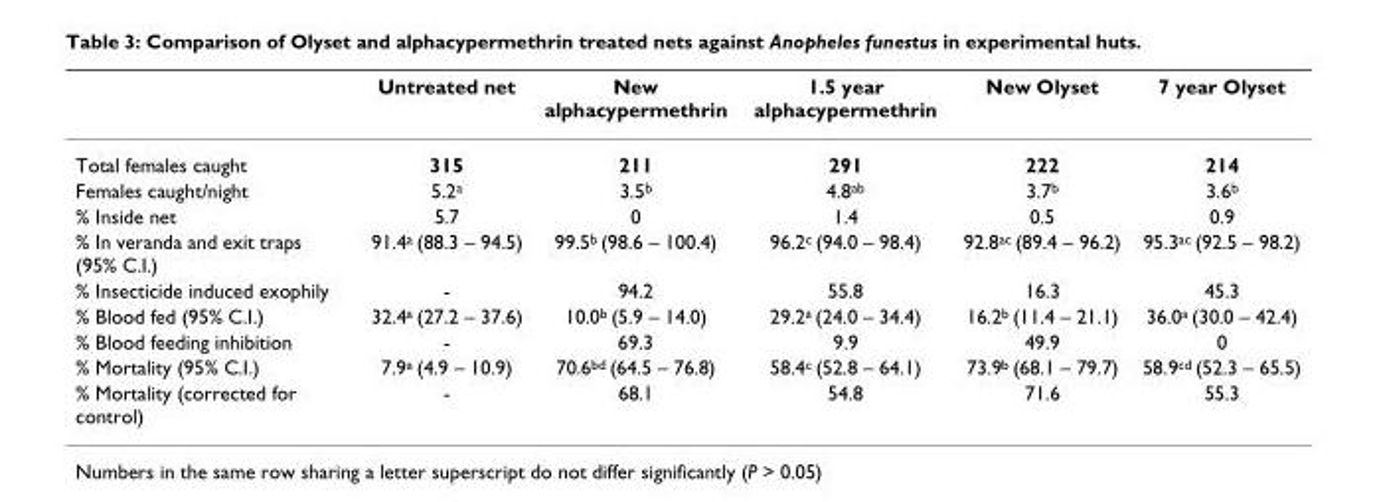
<table><thead><tr><td></td><td>Untreated net</td><td>New alphacypermethrin</td><td>1.5 year alphacypermethrin</td><td>New Olyset</td><td>7 year Olyset</td></tr></thead><tbody><tr><td>Total females caught</td><td>315</td><td>211</td><td>291</td><td>222</td><td>214</td></tr><tr><td>Females caught/night</td><td>5.2<sup>a</sup></td><td>3.5<sup>b</sup></td><td>4.8<sup>ab</sup></td><td>3.7<sup>b</sup></td><td>3.6<sup>b</sup></td></tr><tr><td>% Inside net</td><td>5.7</td><td>0</td><td>1.4</td><td>0.5</td><td>0.9</td></tr><tr><td>% In veranda and exit traps (95% C.I.)</td><td>91.4<sup>a</sup> (88.3 – 94.5)</td><td>99.5<sup>b</sup> (98.6 – 100.4)</td><td>96.2<sup>c</sup> (94.0 – 98.4)</td><td>92.8<sup>ac</sup> (89.4 – 96.2)</td><td>95.3<sup>ac</sup> (92.5 – 98.2)</td></tr><tr><td>% Insecticide induced exophily</td><td>-</td><td>94.2</td><td>55.8</td><td>16.3</td><td>45.3</td></tr><tr><td>% Blood fed (95% C.I.)</td><td>32.4<sup>a</sup> (27.2 – 37.6)</td><td>10.0<sup>b</sup> (5.9 – 14.0)</td><td>29.2<sup>a</sup> (24.0 – 34.4)</td><td>16.2<sup>b</sup> (11.4 – 21.1)</td><td>36.0<sup>a</sup> (30.0 – 42.4)</td></tr><tr><td>% Blood feeding inhibition</td><td>-</td><td>69.3</td><td>9.9</td><td>49.9</td><td>0</td></tr><tr><td>% Mortality (95% C.I.)</td><td>7.9<sup>a</sup> (4.9 – 10.9)</td><td>70.6<sup>bd</sup> (64.5 – 76.8)</td><td>58.4<sup>c</sup> (52.8 – 64.1)</td><td>73.9<sup>b</sup> (68.1 – 79.7)</td><td>58.9<sup>cd</sup> (52.3 – 65.5)</td></tr><tr><td>% Mortality (corrected for control)</td><td>-</td><td>68.1</td><td>54.8</td><td>71.6</td><td>55.3</td></tr></tbody></table>